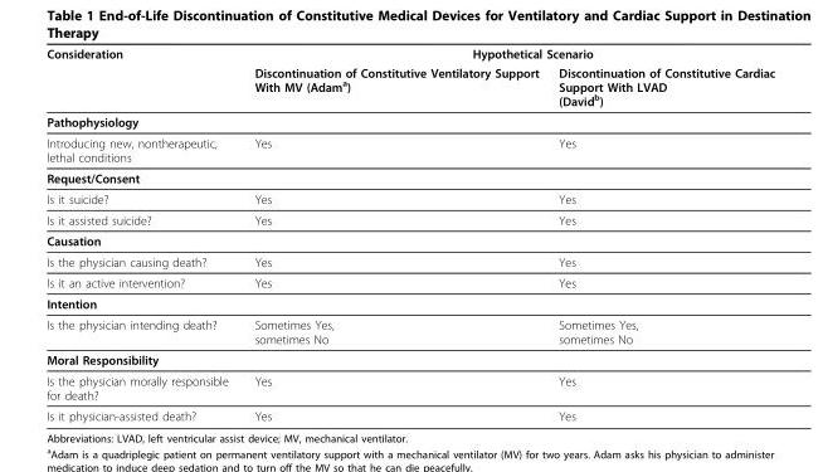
<table><thead><tr><td rowspan="2">Consideration</td><td colspan="2">Hypothetical Scenario</td></tr><tr><td>Discontinuation of Constitutive Ventilatory Support With MV (Adama)</td><td>Discontinuation of Constitutive Cardiac Support With LVAD (Davidb)</td></tr></thead><tbody><tr><td colspan="3">Pathophysiology</td></tr><tr><td>Introducing new, nontherapeutic, lethal conditions</td><td>Yes</td><td>Yes</td></tr><tr><td colspan="3">Request/Consent</td></tr><tr><td>Is it suicide?</td><td>Yes</td><td>Yes</td></tr><tr><td>Is it assisted suicide?</td><td>Yes</td><td>Yes</td></tr><tr><td colspan="3">Causation</td></tr><tr><td>Is the physician causing death?</td><td>Yes</td><td>Yes</td></tr><tr><td>Is it an active intervention?</td><td>Yes</td><td>Yes</td></tr><tr><td colspan="3">Intention</td></tr><tr><td>Is the physician intending death?</td><td>Sometimes Yes, sometimes No</td><td>Sometimes Yes, sometimes No</td></tr><tr><td colspan="3">Moral Responsibility</td></tr><tr><td>Is the physician morally responsible for death?</td><td>Yes</td><td>Yes</td></tr><tr><td>Is it physician-assisted death?</td><td>Yes</td><td>Yes</td></tr></tbody></table>